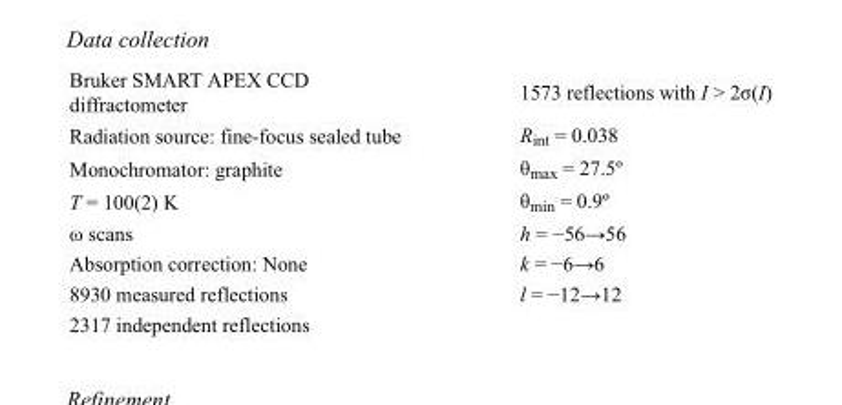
<table><tbody><tr><td>Bruker SMART APEX CCD diffractometer</td><td>1573 reflections with I &gt; 2σ(I)</td></tr><tr><td>Radiation source: fine-focus sealed tube</td><td>R<sub>int</sub> = 0.038</td></tr><tr><td>Monochromator: graphite</td><td>θ<sub>max</sub> = 27.5º</td></tr><tr><td>T = 100(2) K</td><td>θ<sub>min</sub> = 0.9º</td></tr><tr><td>ω scans</td><td>h = −56→56</td></tr><tr><td>Absorption correction: None</td><td>k = −6→6</td></tr><tr><td>8930 measured reflections</td><td>l = −12→12</td></tr><tr><td>2317 independent reflections</td><td></td></tr></tbody></table>